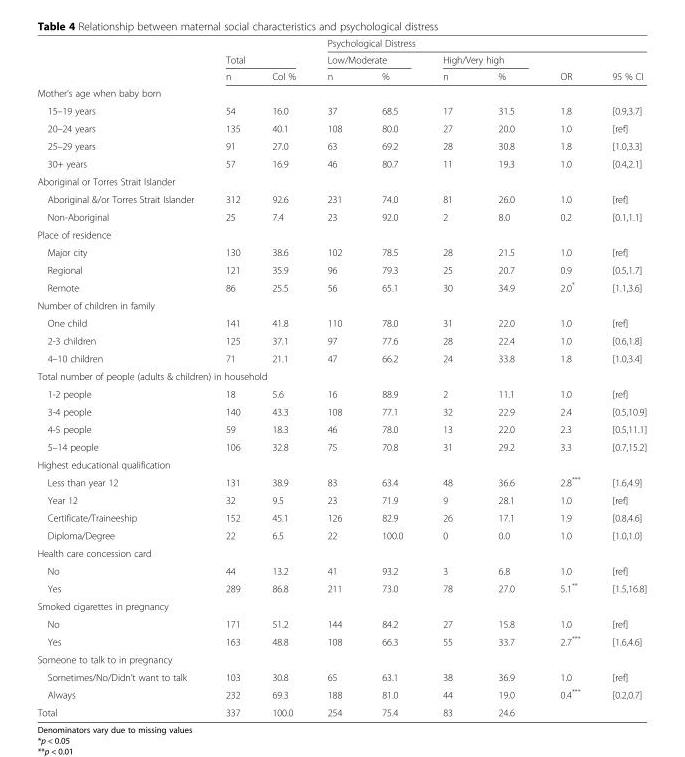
<table><thead><tr><td rowspan="3"></td><td></td><td></td><td colspan="6">Psychological Distress</td></tr><tr><td colspan="2">Total</td><td colspan="2">Low/Moderate</td><td colspan="2">High/Very high</td><td rowspan="2">OR</td><td rowspan="2">95 % CI</td></tr><tr><td>n</td><td>Col %</td><td>n</td><td>%</td><td>n</td><td>%</td></tr></thead><tbody><tr><td colspan="9">Mother’s age when baby born</td></tr><tr><td>15–19 years</td><td>54</td><td>16.0</td><td>37</td><td>68.5</td><td>17</td><td>31.5</td><td>1.8</td><td>[0.9,3.7]</td></tr><tr><td>20–24 years</td><td>135</td><td>40.1</td><td>108</td><td>80.0</td><td>27</td><td>20.0</td><td>1.0</td><td>[ref]</td></tr><tr><td>25–29 years</td><td>91</td><td>27.0</td><td>63</td><td>69.2</td><td>28</td><td>30.8</td><td>1.8</td><td>[1.0,3.3]</td></tr><tr><td>30+ years</td><td>57</td><td>16.9</td><td>46</td><td>80.7</td><td>11</td><td>19.3</td><td>1.0</td><td>[0.4,2.1]</td></tr><tr><td colspan="9">Aboriginal or Torres Strait Islander</td></tr><tr><td>Aboriginal &amp;/or Torres Strait Islander</td><td>312</td><td>92.6</td><td>231</td><td>74.0</td><td>81</td><td>26.0</td><td>1.0</td><td>[ref]</td></tr><tr><td>Non-Aboriginal</td><td>25</td><td>7.4</td><td>23</td><td>92.0</td><td>2</td><td>8.0</td><td>0.2</td><td>[0.1,1.1]</td></tr><tr><td colspan="9">Place of residence</td></tr><tr><td>Major city</td><td>130</td><td>38.6</td><td>102</td><td>78.5</td><td>28</td><td>21.5</td><td>1.0</td><td>[ref]</td></tr><tr><td>Regional</td><td>121</td><td>35.9</td><td>96</td><td>79.3</td><td>25</td><td>20.7</td><td>0.9</td><td>[0.5,1.7]</td></tr><tr><td>Remote</td><td>86</td><td>25.5</td><td>56</td><td>65.1</td><td>30</td><td>34.9</td><td>2.0*</td><td>[1.1,3.6]</td></tr><tr><td colspan="9">Number of children in family</td></tr><tr><td>One child</td><td>141</td><td>41.8</td><td>110</td><td>78.0</td><td>31</td><td>22.0</td><td>1.0</td><td>[ref]</td></tr><tr><td>2-3 children</td><td>125</td><td>37.1</td><td>97</td><td>77.6</td><td>28</td><td>22.4</td><td>1.0</td><td>[0.6,1.8]</td></tr><tr><td>4–10 children</td><td>71</td><td>21.1</td><td>47</td><td>66.2</td><td>24</td><td>33.8</td><td>1.8</td><td>[1.0,3.4]</td></tr><tr><td colspan="9">Total number of people (adults &amp; children) in household</td></tr><tr><td>1-2 people</td><td>18</td><td>5.6</td><td>16</td><td>88.9</td><td>2</td><td>11.1</td><td>1.0</td><td>[ref]</td></tr><tr><td>3-4 people</td><td>140</td><td>43.3</td><td>108</td><td>77.1</td><td>32</td><td>22.9</td><td>2.4</td><td>[0.5,10.9]</td></tr><tr><td>4-5 people</td><td>59</td><td>18.3</td><td>46</td><td>78.0</td><td>13</td><td>22.0</td><td>2.3</td><td>[0.5,11.1]</td></tr><tr><td>5–14 people</td><td>106</td><td>32.8</td><td>75</td><td>70.8</td><td>31</td><td>29.2</td><td>3.3</td><td>[0.7,15.2]</td></tr><tr><td colspan="9">Highest educational qualification</td></tr><tr><td>Less than year 12</td><td>131</td><td>38.9</td><td>83</td><td>63.4</td><td>48</td><td>36.6</td><td>2.8***</td><td>[1.6,4.9]</td></tr><tr><td>Year 12</td><td>32</td><td>9.5</td><td>23</td><td>71.9</td><td>9</td><td>28.1</td><td>1.0</td><td>[ref]</td></tr><tr><td>Certificate/Traineeship</td><td>152</td><td>45.1</td><td>126</td><td>82.9</td><td>26</td><td>17.1</td><td>1.9</td><td>[0.8,4.6]</td></tr><tr><td>Diploma/Degree</td><td>22</td><td>6.5</td><td>22</td><td>100.0</td><td>0</td><td>0.0</td><td>1.0</td><td>[1.0,1.0]</td></tr><tr><td colspan="9">Health care concession card</td></tr><tr><td>No</td><td>44</td><td>13.2</td><td>41</td><td>93.2</td><td>3</td><td>6.8</td><td>1.0</td><td>[ref]</td></tr><tr><td>Yes</td><td>289</td><td>86.8</td><td>211</td><td>73.0</td><td>78</td><td>27.0</td><td>5.1**</td><td>[1.5,16.8]</td></tr><tr><td colspan="9">Smoked cigarettes in pregnancy</td></tr><tr><td>No</td><td>171</td><td>51.2</td><td>144</td><td>84.2</td><td>27</td><td>15.8</td><td>1.0</td><td>[ref]</td></tr><tr><td>Yes</td><td>163</td><td>48.8</td><td>108</td><td>66.3</td><td>55</td><td>33.7</td><td>2.7***</td><td>[1.6,4.6]</td></tr><tr><td colspan="9">Someone to talk to in pregnancy</td></tr><tr><td>Sometimes/No/Didn’t want to talk</td><td>103</td><td>30.8</td><td>65</td><td>63.1</td><td>38</td><td>36.9</td><td>1.0</td><td>[ref]</td></tr><tr><td>Always</td><td>232</td><td>69.3</td><td>188</td><td>81.0</td><td>44</td><td>19.0</td><td>0.4***</td><td>[0.2,0.7]</td></tr><tr><td>Total</td><td>337</td><td>100.0</td><td>254</td><td>75.4</td><td>83</td><td>24.6</td><td></td><td></td></tr></tbody></table>